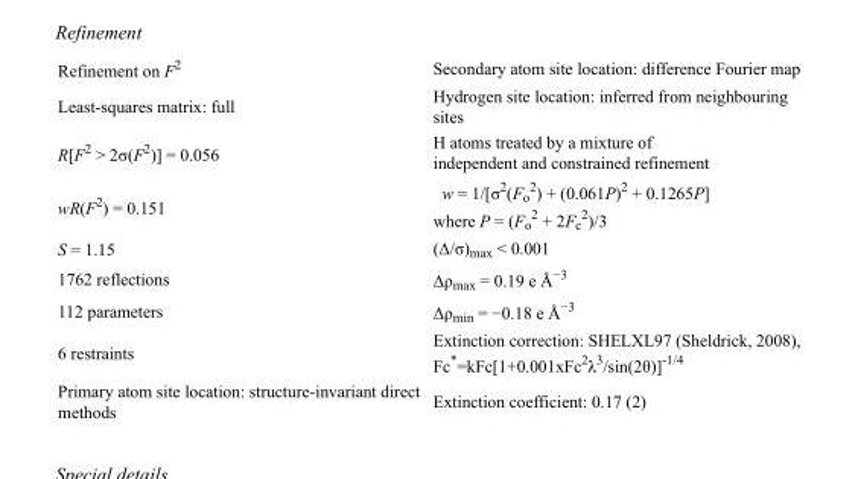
<table><tbody><tr><td>Refinement on F<sup>2</sup></td><td>Secondary atom site location: difference Fourier map</td></tr><tr><td>Least-squares matrix: full</td><td>Hydrogen site location: inferred from neighbouring sites</td></tr><tr><td>R[F<sup>2</sup> &gt; 2σ(F<sup>2</sup>)] = 0.056</td><td>H atoms treated by a mixture of independent and constrained refinement</td></tr><tr><td>wR(F<sup>2</sup>) = 0.151</td><td>w = 1/[σ<sup>2</sup>(F<sub>o</sub> <sup>2</sup>) + (0.061P)<sup>2</sup> + 0.1265P] where P = (F<sub>o</sub> <sup>2</sup> + 2F<sub>c</sub> <sup>2</sup>)/3</td></tr><tr><td>S = 1.15</td><td>(Δ/σ)<sub>max</sub> &lt; 0.001</td></tr><tr><td>1762 reflections</td><td>Δρ<sub>max</sub> = 0.19 e Å<sup>−3</sup></td></tr><tr><td>112 parameters</td><td>Δρ<sub>min</sub> = −0.18 e Å<sup>−3</sup></td></tr><tr><td>6 restraints</td><td>Extinction correction: SHELXL97 (Sheldrick, 2008), Fc*=kFc[1+0.001xFc<sup>2</sup>λ<sup>3</sup>/sin(2θ)]<sup>-1/4</sup></td></tr><tr><td>Primary atom site location: structure-invariant direct methods</td><td>Extinction coefficient: 0.17 (2)</td></tr></tbody></table>